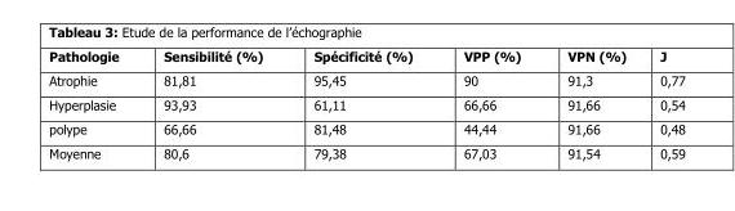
<table><thead><tr><td>Pathologie</td><td>Sensibilité (%)</td><td>Spécificité (%)</td><td>VPP (%)</td><td>VPN (%)</td><td>J</td></tr></thead><tbody><tr><td>Atrophie</td><td>81,81</td><td>95,45</td><td>90</td><td>91,3</td><td>0,77</td></tr><tr><td>Hyperplasie</td><td>93,93</td><td>61,11</td><td>66,66</td><td>91,66</td><td>0,54</td></tr><tr><td>polype</td><td>66,66</td><td>81,48</td><td>44,44</td><td>91,66</td><td>0,48</td></tr><tr><td>Moyenne</td><td>80,6</td><td>79,38</td><td>67,03</td><td>91,54</td><td>0,59</td></tr></tbody></table>